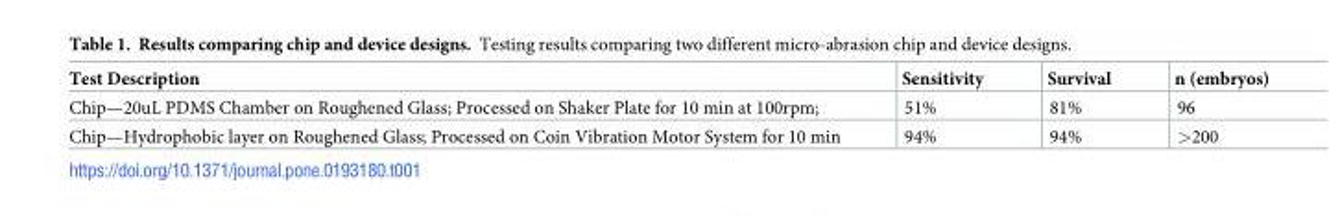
<table><thead><tr><td>Test Description</td><td>Sensitivity</td><td>Survival</td><td>n (embryos)</td></tr></thead><tbody><tr><td>Chip—20uL PDMS Chamber on Roughened Glass; Processed on Shaker Plate for 10 min at 100rpm;</td><td>51%</td><td>81%</td><td>96</td></tr><tr><td>Chip—Hydrophobic layer on Roughened Glass; Processed on Coin Vibration Motor System for 10 min</td><td>94%</td><td>94%</td><td>&gt;200</td></tr></tbody></table>